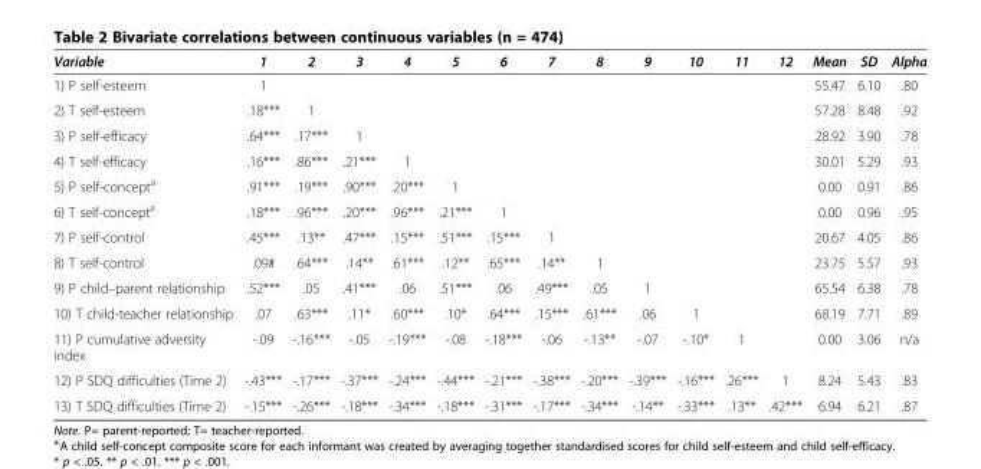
<table><thead><tr><td>Variable</td><td>1</td><td>2</td><td>3</td><td>4</td><td>5</td><td>6</td><td>7</td><td>8</td><td>9</td><td>10</td><td>11</td><td>12</td><td>Mean</td><td>SD</td><td>Alpha</td></tr></thead><tbody><tr><td>1) P self-esteem</td><td>1</td><td></td><td></td><td></td><td></td><td></td><td></td><td></td><td></td><td></td><td></td><td></td><td>55.47</td><td>6.10</td><td>.80</td></tr><tr><td>2) T self-esteem</td><td>.18***</td><td>1</td><td></td><td></td><td></td><td></td><td></td><td></td><td></td><td></td><td></td><td></td><td>57.28</td><td>8.48</td><td>.92</td></tr><tr><td>3) P self-efficacy</td><td>.64***</td><td>.17***</td><td>1</td><td></td><td></td><td></td><td></td><td></td><td></td><td></td><td></td><td></td><td>28.92</td><td>3.90</td><td>.78</td></tr><tr><td>4) T self-efficacy</td><td>.16***</td><td>.86***</td><td>.21***</td><td>1</td><td></td><td></td><td></td><td></td><td></td><td></td><td></td><td></td><td>30.01</td><td>5.29</td><td>.93</td></tr><tr><td>5) P self-concept<sup>a</sup></td><td>.91***</td><td>.19***</td><td>.90***</td><td>.20***</td><td>1</td><td></td><td></td><td></td><td></td><td></td><td></td><td></td><td>0.00</td><td>0.91</td><td>.86</td></tr><tr><td>6) T self-concept<sup>a</sup></td><td>.18***</td><td>.96***</td><td>.20***</td><td>.96***</td><td>.21***</td><td>1</td><td></td><td></td><td></td><td></td><td></td><td></td><td>0.00</td><td>0.96</td><td>.95</td></tr><tr><td>7) P self-control</td><td>.45***</td><td>.13**</td><td>.47***</td><td>.15***</td><td>.51***</td><td>.15***</td><td>1</td><td></td><td></td><td></td><td></td><td></td><td>20.67</td><td>4.05</td><td>.86</td></tr><tr><td>8) T self-control</td><td>.09#</td><td>.64***</td><td>.14**</td><td>.61***</td><td>.12**</td><td>.65***</td><td>.14**</td><td>1</td><td></td><td></td><td></td><td></td><td>23.75</td><td>5.57</td><td>.93</td></tr><tr><td>9) P child–parent relationship</td><td>.52***</td><td>.05</td><td>.41***</td><td>.06</td><td>.51***</td><td>.06</td><td>.49***</td><td>.05</td><td>1</td><td></td><td></td><td></td><td>65.54</td><td>6.38</td><td>.78</td></tr><tr><td>10) T child-teacher relationship</td><td>.07</td><td>.63***</td><td>.11*</td><td>.60***</td><td>.10*</td><td>.64***</td><td>.15***</td><td>.61***</td><td>.06</td><td>1</td><td></td><td></td><td>68.19</td><td>7.71</td><td>.89</td></tr><tr><td>11) P cumulative adversity index</td><td>-.09</td><td>-.16***</td><td>-.05</td><td>-.19***</td><td>-.08</td><td>-.18***</td><td>-.06</td><td>-.13**</td><td>-.07</td><td>-.10*</td><td>1</td><td></td><td>0.00</td><td>3.06</td><td>n/a</td></tr><tr><td>12) P SDQ difficulties (Time 2)</td><td>-.43***</td><td>-.17***</td><td>-.37***</td><td>-.24***</td><td>-.44***</td><td>-.21***</td><td>-.38***</td><td>-.20***</td><td>-.39***</td><td>-.16***</td><td>.26***</td><td>1</td><td>8.24</td><td>5.43</td><td>.83</td></tr><tr><td>13) T SDQ difficulties (Time 2)</td><td>-.15***</td><td>-.26***</td><td>-.18***</td><td>-.34***</td><td>-.18***</td><td>-.31***</td><td>-.17***</td><td>-.34***</td><td>-.14**</td><td>-.33***</td><td>.13**</td><td>.42***</td><td>6.94</td><td>6.21</td><td>.87</td></tr></tbody></table>